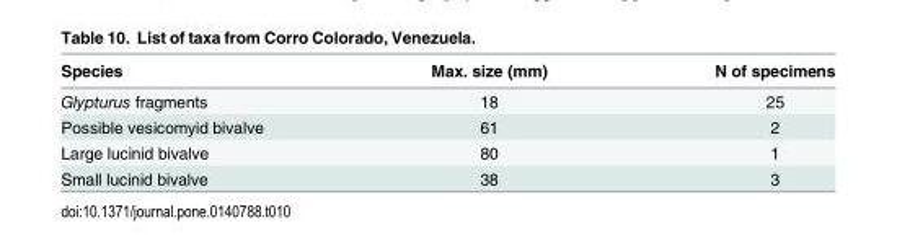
<table><thead><tr><td>Species</td><td>Max. size (mm)</td><td>N of specimens</td></tr></thead><tbody><tr><td>Glypturus fragments</td><td>18</td><td>25</td></tr><tr><td>Possible vesicomyid bivalve</td><td>61</td><td>2</td></tr><tr><td>Large lucinid bivalve</td><td>80</td><td>1</td></tr><tr><td>Small lucinid bivalve</td><td>38</td><td>3</td></tr></tbody></table>